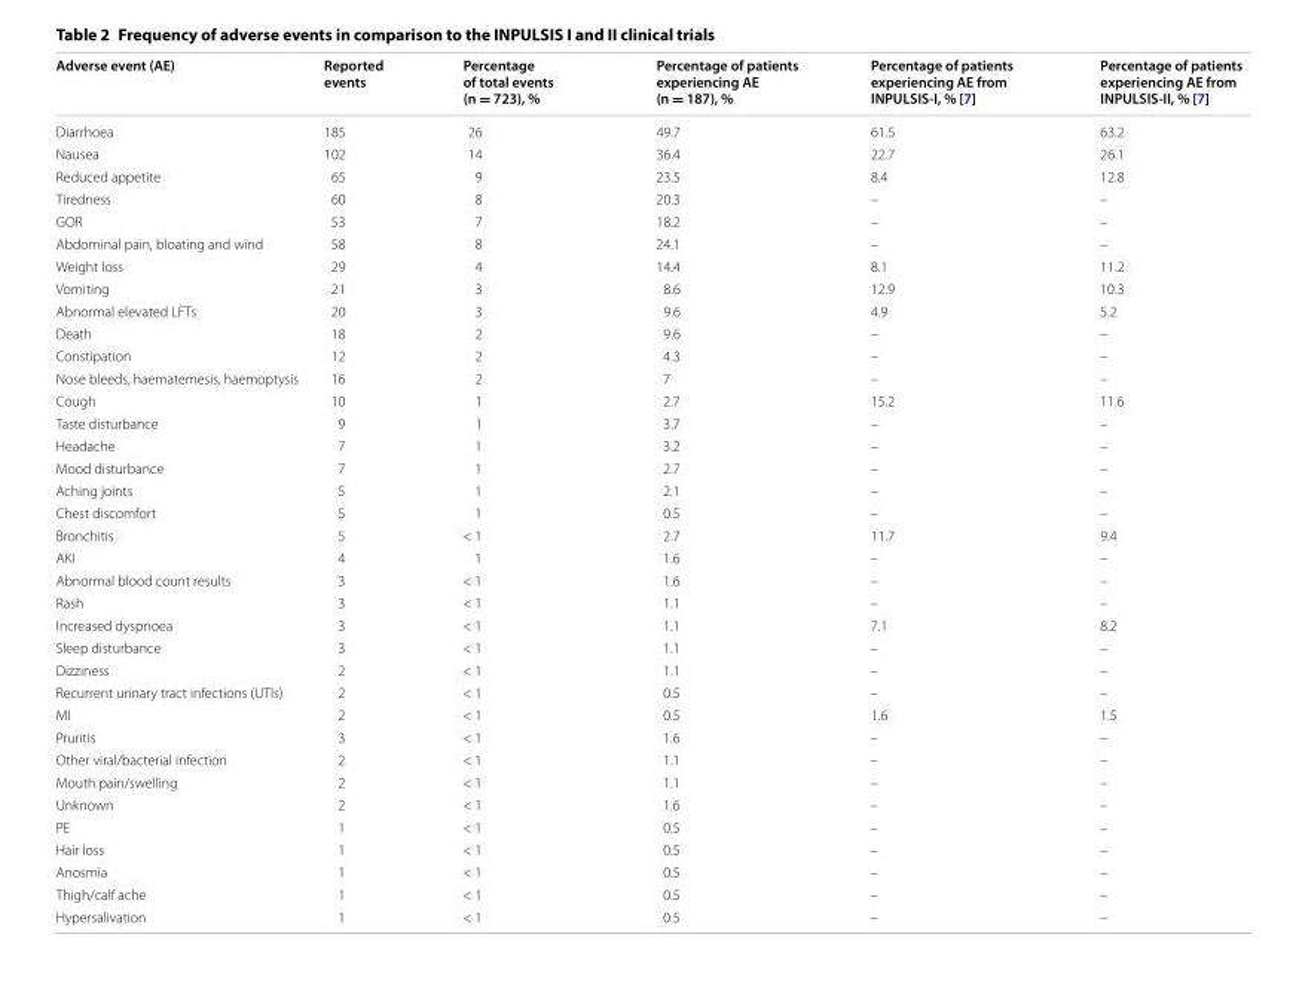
<table><thead><tr><td>Adverse event (AE)</td><td>Reported events</td><td>Percentage of total events (n = 723), %</td><td>Percentage of patients experiencing AE (n = 187), %</td><td>Percentage of patients experiencing AE from INPULSIS-I, % [7]</td><td>Percentage of patients experiencing AE from INPULSIS-II, % [7]</td></tr></thead><tbody><tr><td>Diarrhoea</td><td>185</td><td>26</td><td>49.7</td><td>61.5</td><td>63.2</td></tr><tr><td>Nausea</td><td>102</td><td>14</td><td>36.4</td><td>22.7</td><td>26.1</td></tr><tr><td>Reduced appetite</td><td>65</td><td>9</td><td>23.5</td><td>8.4</td><td>12.8</td></tr><tr><td>Tiredness</td><td>60</td><td>8</td><td>20.3</td><td>–</td><td>–</td></tr><tr><td>GOR</td><td>53</td><td>7</td><td>18.2</td><td>–</td><td>–</td></tr><tr><td>Abdominal pain, bloating and wind</td><td>58</td><td>8</td><td>24.1</td><td>–</td><td>–</td></tr><tr><td>Weight loss</td><td>29</td><td>4</td><td>14.4</td><td>8.1</td><td>11.2</td></tr><tr><td>Vomiting</td><td>21</td><td>3</td><td>8.6</td><td>12.9</td><td>10.3</td></tr><tr><td>Abnormal elevated LFTs</td><td>20</td><td>3</td><td>9.6</td><td>4.9</td><td>5.2</td></tr><tr><td>Death</td><td>18</td><td>2</td><td>9.6</td><td>–</td><td>–</td></tr><tr><td>Constipation</td><td>12</td><td>2</td><td>4.3</td><td>–</td><td>–</td></tr><tr><td>Nose bleeds, haematemesis, haemoptysis</td><td>16</td><td>2</td><td>7</td><td>–</td><td>–</td></tr><tr><td>Cough</td><td>10</td><td>1</td><td>2.7</td><td>15.2</td><td>11.6</td></tr><tr><td>Taste disturbance</td><td>9</td><td>1</td><td>3.7</td><td>–</td><td>–</td></tr><tr><td>Headache</td><td>7</td><td>1</td><td>3.2</td><td>–</td><td>–</td></tr><tr><td>Mood disturbance</td><td>7</td><td>1</td><td>2.7</td><td>–</td><td>–</td></tr><tr><td>Aching joints</td><td>5</td><td>1</td><td>2.1</td><td>–</td><td>–</td></tr><tr><td>Chest discomfort</td><td>5</td><td>1</td><td>0.5</td><td>–</td><td>–</td></tr><tr><td>Bronchitis</td><td>5</td><td>&lt; 1</td><td>2.7</td><td>11.7</td><td>9.4</td></tr><tr><td>AKI</td><td>4</td><td>1</td><td>1.6</td><td>–</td><td>–</td></tr><tr><td>Abnormal blood count results</td><td>3</td><td>&lt; 1</td><td>1.6</td><td>–</td><td>–</td></tr><tr><td>Rash</td><td>3</td><td>&lt; 1</td><td>1.1</td><td>–</td><td>–</td></tr><tr><td>Increased dyspnoea</td><td>3</td><td>&lt; 1</td><td>1.1</td><td>7.1</td><td>8.2</td></tr><tr><td>Sleep disturbance</td><td>3</td><td>&lt; 1</td><td>1.1</td><td>–</td><td>–</td></tr><tr><td>Dizziness</td><td>2</td><td>&lt; 1</td><td>1.1</td><td>–</td><td>–</td></tr><tr><td>Recurrent urinary tract infections (UTIs)</td><td>2</td><td>&lt; 1</td><td>0.5</td><td>–</td><td>–</td></tr><tr><td>MI</td><td>2</td><td>&lt; 1</td><td>0.5</td><td>1.6</td><td>1.5</td></tr><tr><td>Pruritis</td><td>3</td><td>&lt; 1</td><td>1.6</td><td>–</td><td>–</td></tr><tr><td>Other viral/bacterial infection</td><td>2</td><td>&lt; 1</td><td>1.1</td><td>–</td><td>–</td></tr><tr><td>Mouth pain/swelling</td><td>2</td><td>&lt; 1</td><td>1.1</td><td>–</td><td>–</td></tr><tr><td>Unknown</td><td>2</td><td>&lt; 1</td><td>1.6</td><td>–</td><td>–</td></tr><tr><td>PE</td><td>1</td><td>&lt; 1</td><td>0.5</td><td>–</td><td>–</td></tr><tr><td>Hair loss</td><td>1</td><td>&lt; 1</td><td>0.5</td><td>–</td><td>–</td></tr><tr><td>Anosmia</td><td>1</td><td>&lt; 1</td><td>0.5</td><td>–</td><td>–</td></tr><tr><td>Thigh/calf ache</td><td>1</td><td>&lt; 1</td><td>0.5</td><td>–</td><td>–</td></tr><tr><td>Hypersalivation</td><td>1</td><td>&lt; 1</td><td>0.5</td><td>–</td><td>–</td></tr></tbody></table>